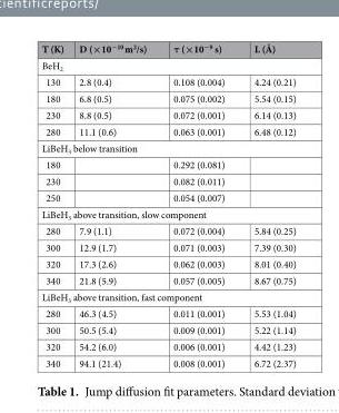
<table><thead><tr><td>T (K)</td><td>D (×10<sup>−10</sup> m<sup>2</sup>/s)</td><td>τ (×10<sup>−9</sup> s)</td><td>L (Å)</td></tr></thead><tbody><tr><td colspan="4">BeH<sub>2</sub></td></tr><tr><td>130</td><td>2.8 (0.4)</td><td>0.108 (0.004)</td><td>4.24 (0.21)</td></tr><tr><td>180</td><td>6.8 (0.5)</td><td>0.075 (0.002)</td><td>5.54 (0.15)</td></tr><tr><td>230</td><td>8.8 (0.5)</td><td>0.072 (0.001)</td><td>6.14 (0.13)</td></tr><tr><td>280</td><td>11.1 (0.6)</td><td>0.063 (0.001)</td><td>6.48 (0.12)</td></tr><tr><td colspan="4">LiBeH<sub>3</sub> below transition</td></tr><tr><td>180</td><td></td><td>0.292 (0.081)</td><td></td></tr><tr><td>230</td><td></td><td>0.082 (0.011)</td><td></td></tr><tr><td>250</td><td></td><td>0.054 (0.007)</td><td></td></tr><tr><td colspan="4">LiBeH<sub>3</sub> above transition, slow component</td></tr><tr><td>280</td><td>7.9 (1.1)</td><td>0.072 (0.004)</td><td>5.84 (0.25)</td></tr><tr><td>300</td><td>12.9 (1.7)</td><td>0.071 (0.003)</td><td>7.39 (0.30)</td></tr><tr><td>320</td><td>17.3 (2.6)</td><td>0.062 (0.003)</td><td>8.01 (0.40)</td></tr><tr><td>340</td><td>21.8 (5.9)</td><td>0.057 (0.005)</td><td>8.67 (0.75)</td></tr><tr><td colspan="4">LiBeH<sub>3</sub> above transition, fast component</td></tr><tr><td>280</td><td>46.3 (4.5)</td><td>0.011 (0.001)</td><td>5.53 (1.04)</td></tr><tr><td>300</td><td>50.5 (5.4)</td><td>0.009 (0.001)</td><td>5.22 (1.14)</td></tr><tr><td>320</td><td>54.2 (6.0)</td><td>0.006 (0.001)</td><td>4.42 (1.23)</td></tr><tr><td>340</td><td>94.1 (21.4)</td><td>0.008 (0.001)</td><td>6.72 (2.37)</td></tr></tbody></table>